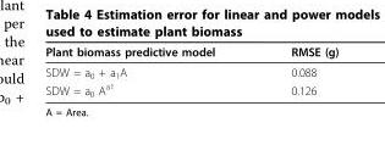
<table><thead><tr><td>Plant biomass predictive model</td><td>RMSE (g)</td></tr></thead><tbody><tr><td>SDW = a<sub>0</sub> + a<sub>1</sub>A</td><td>0.088</td></tr><tr><td>SDW = a<sub>0</sub> A<sup>a1</sup></td><td>0.126</td></tr></tbody></table>